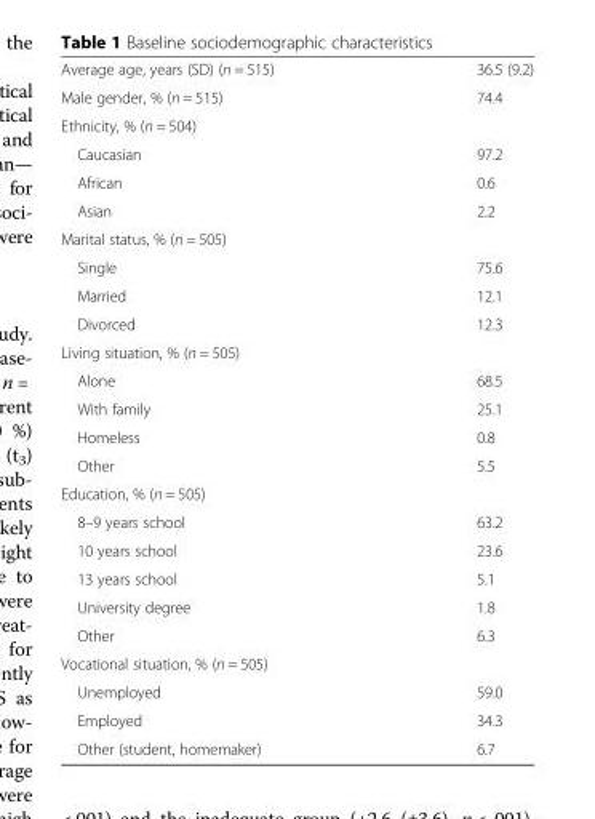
<table><tbody><tr><td>Average age, years (SD) (n = 515)</td><td>36.5 (9.2)</td></tr><tr><td>Male gender, % (n = 515)</td><td>74.4</td></tr><tr><td colspan="2">Ethnicity, % (n = 504)</td></tr><tr><td>Caucasian</td><td>97.2</td></tr><tr><td>African</td><td>0.6</td></tr><tr><td>Asian</td><td>2.2</td></tr><tr><td colspan="2">Marital status, % (n = 505)</td></tr><tr><td>Single</td><td>75.6</td></tr><tr><td>Married</td><td>12.1</td></tr><tr><td>Divorced</td><td>12.3</td></tr><tr><td colspan="2">Living situation, % (n = 505)</td></tr><tr><td>Alone</td><td>68.5</td></tr><tr><td>With family</td><td>25.1</td></tr><tr><td>Homeless</td><td>0.8</td></tr><tr><td>Other</td><td>5.5</td></tr><tr><td colspan="2">Education, % (n = 505)</td></tr><tr><td>8–9 years school</td><td>63.2</td></tr><tr><td>10 years school</td><td>23.6</td></tr><tr><td>13 years school</td><td>5.1</td></tr><tr><td>University degree</td><td>1.8</td></tr><tr><td>Other</td><td>6.3</td></tr><tr><td colspan="2">Vocational situation, % (n = 505)</td></tr><tr><td>Unemployed</td><td>59.0</td></tr><tr><td>Employed</td><td>34.3</td></tr><tr><td>Other (student, homemaker)</td><td>6.7</td></tr></tbody></table>